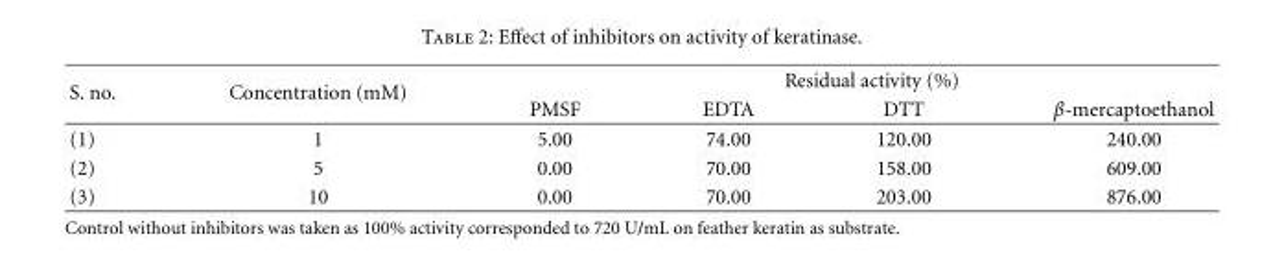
<table><thead><tr><td rowspan="2">S. no.</td><td rowspan="2">Concentration (mM)</td><td colspan="4">Residual activity (%)</td></tr><tr><td>PMSF</td><td>EDTA</td><td>DTT</td><td>β-mercaptoethanol</td></tr></thead><tbody><tr><td>(1)</td><td>1</td><td>5.00</td><td>74.00</td><td>120.00</td><td>240.00</td></tr><tr><td>(2)</td><td>5</td><td>0.00</td><td>70.00</td><td>158.00</td><td>609.00</td></tr><tr><td>(3)</td><td>10</td><td>0.00</td><td>70.00</td><td>203.00</td><td>876.00</td></tr></tbody></table>